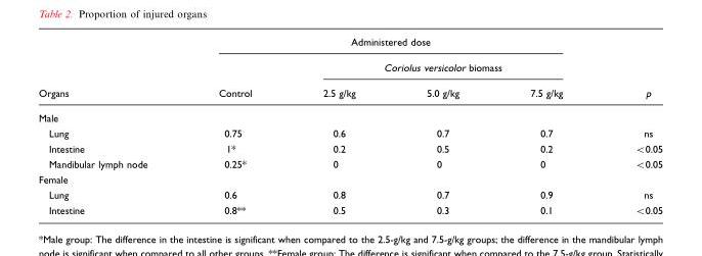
<table><thead><tr><td rowspan="3">Organs</td><td colspan="4">Administered dose</td><td rowspan="3">p</td></tr><tr><td rowspan="2">Control</td><td colspan="3">Coriolus versicolor biomass</td></tr><tr><td>2.5 g/kg</td><td>5.0 g/kg</td><td>7.5 g/kg</td></tr></thead><tbody><tr><td colspan="6">Male</td></tr><tr><td>Lung</td><td>0.75</td><td>0.6</td><td>0.7</td><td>0.7</td><td>ns</td></tr><tr><td>Intestine</td><td>1*</td><td>0.2</td><td>0.5</td><td>0.2</td><td>&lt;0.05</td></tr><tr><td>Mandibular lymph node</td><td>0.25*</td><td>0</td><td>0</td><td>0</td><td>&lt;0.05</td></tr><tr><td colspan="6">Female</td></tr><tr><td>Lung</td><td>0.6</td><td>0.8</td><td>0.7</td><td>0.9</td><td>ns</td></tr><tr><td>Intestine</td><td>0.8**</td><td>0.5</td><td>0.3</td><td>0.1</td><td>&lt;0.05</td></tr></tbody></table>